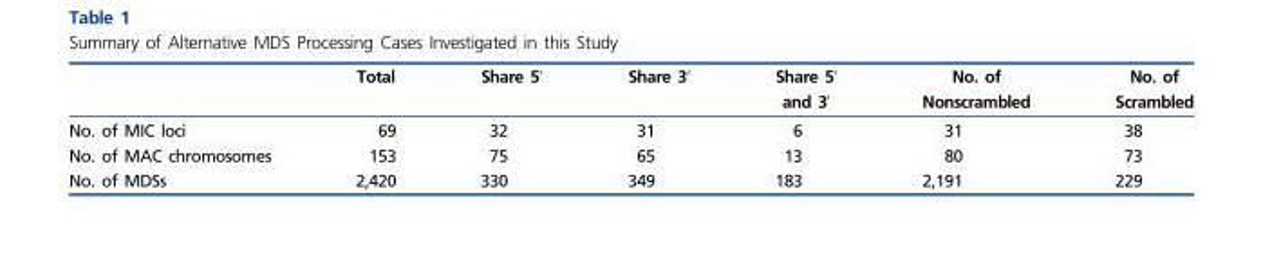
<table><thead><tr><td></td><td>Total</td><td>Share 5′</td><td>Share 3′</td><td>Share 5′ and 3′</td><td>No. of Nonscrambled</td><td>No. of Scrambled</td></tr></thead><tbody><tr><td>No. of MIC loci</td><td>69</td><td>32</td><td>31</td><td>6</td><td>31</td><td>38</td></tr><tr><td>No. of MAC chromosomes</td><td>153</td><td>75</td><td>65</td><td>13</td><td>80</td><td>73</td></tr><tr><td>No. of MDSs</td><td>2,420</td><td>330</td><td>349</td><td>183</td><td>2,191</td><td>229</td></tr></tbody></table>